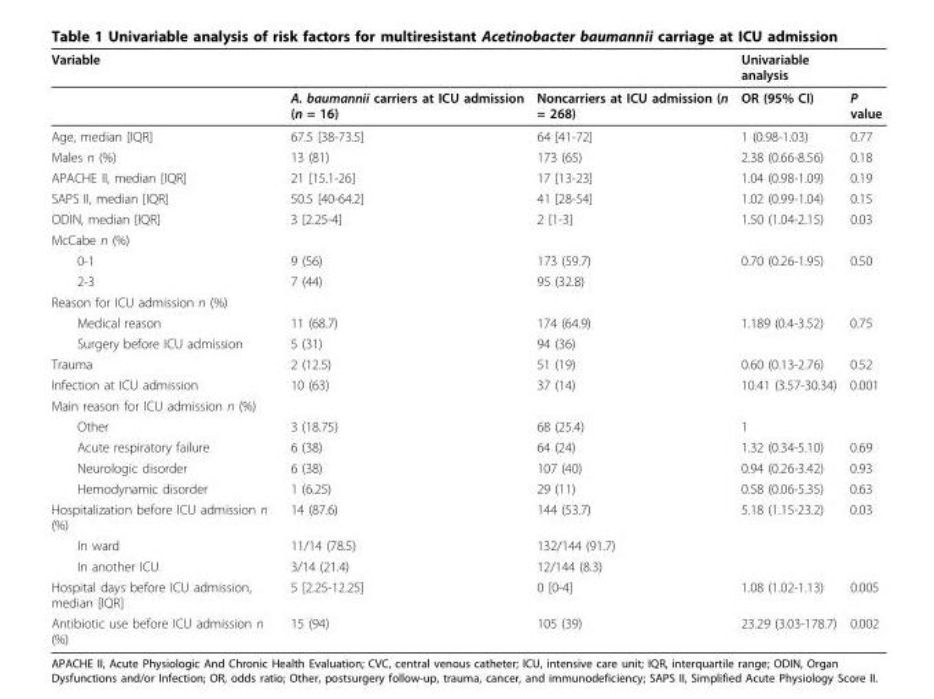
<table><thead><tr><td>Variable</td><td></td><td></td><td>Univariable analysis</td><td></td></tr></thead><tbody><tr><td></td><td>A. baumannii carriers at ICU admission (n = 16)</td><td>Noncarriers at ICU admission (n = 268)</td><td>OR (95% CI)</td><td>P value</td></tr><tr><td>Age, median [IQR]</td><td>67.5 [38-73.5]</td><td>64 [41-72]</td><td>1 (0.98-1.03)</td><td>0.77</td></tr><tr><td>Males n (%)</td><td>13 (81)</td><td>173 (65)</td><td>2.38 (0.66-8.56)</td><td>0.18</td></tr><tr><td>APACHE II, median [IQR]</td><td>21 [15.1-26]</td><td>17 [13-23]</td><td>1.04 (0.98-1.09)</td><td>0.19</td></tr><tr><td>SAPS II, median [IQR]</td><td>50.5 [40-64.2]</td><td>41 [28-54]</td><td>1.02 (0.99-1.04)</td><td>0.15</td></tr><tr><td>ODIN, median [IQR]</td><td>3 [2.25-4]</td><td>2 [1-3]</td><td>1.50 (1.04-2.15)</td><td>0.03</td></tr><tr><td colspan="5">McCabe n (%)</td></tr><tr><td>0-1</td><td>9 (56)</td><td>173 (59.7)</td><td>0.70 (0.26-1.95)</td><td>0.50</td></tr><tr><td>2-3</td><td>7 (44)</td><td>95 (32.8)</td><td></td><td></td></tr><tr><td colspan="5">Reason for ICU admission n (%)</td></tr><tr><td>Medical reason</td><td>11 (68.7)</td><td>174 (64.9)</td><td>1.189 (0.4-3.52)</td><td>0.75</td></tr><tr><td>Surgery before ICU admission</td><td>5 (31)</td><td>94 (36)</td><td></td><td></td></tr><tr><td>Trauma</td><td>2 (12.5)</td><td>51 (19)</td><td>0.60 (0.13-2.76)</td><td>0.52</td></tr><tr><td>Infection at ICU admission</td><td>10 (63)</td><td>37 (14)</td><td>10.41 (3.57-30.34)</td><td>0.001</td></tr><tr><td colspan="5">Main reason for ICU admission n (%)</td></tr><tr><td>Other</td><td>3 (18.75)</td><td>68 (25.4)</td><td>1</td><td></td></tr><tr><td>Acute respiratory failure</td><td>6 (38)</td><td>64 (24)</td><td>1.32 (0.34-5.10)</td><td>0.69</td></tr><tr><td>Neurologic disorder</td><td>6 (38)</td><td>107 (40)</td><td>0.94 (0.26-3.42)</td><td>0.93</td></tr><tr><td>Hemodynamic disorder</td><td>1 (6.25)</td><td>29 (11)</td><td>0.58 (0.06-5.35)</td><td>0.63</td></tr><tr><td>Hospitalization before ICU admission n (%)</td><td>14 (87.6)</td><td>144 (53.7)</td><td>5.18 (1.15-23.2)</td><td>0.03</td></tr><tr><td>In ward</td><td>11/14 (78.5)</td><td>132/144 (91.7)</td><td></td><td></td></tr><tr><td>In another ICU</td><td>3/14 (21.4)</td><td>12/144 (8.3)</td><td></td><td></td></tr><tr><td>Hospital days before ICU admission, median [IQR]</td><td>5 [2.25-12.25]</td><td>0 [0-4]</td><td>1.08 (1.02-1.13)</td><td>0.005</td></tr><tr><td>Antibiotic use before ICU admission n (%)</td><td>15 (94)</td><td>105 (39)</td><td>23.29 (3.03-178.7)</td><td>0.002</td></tr></tbody></table>